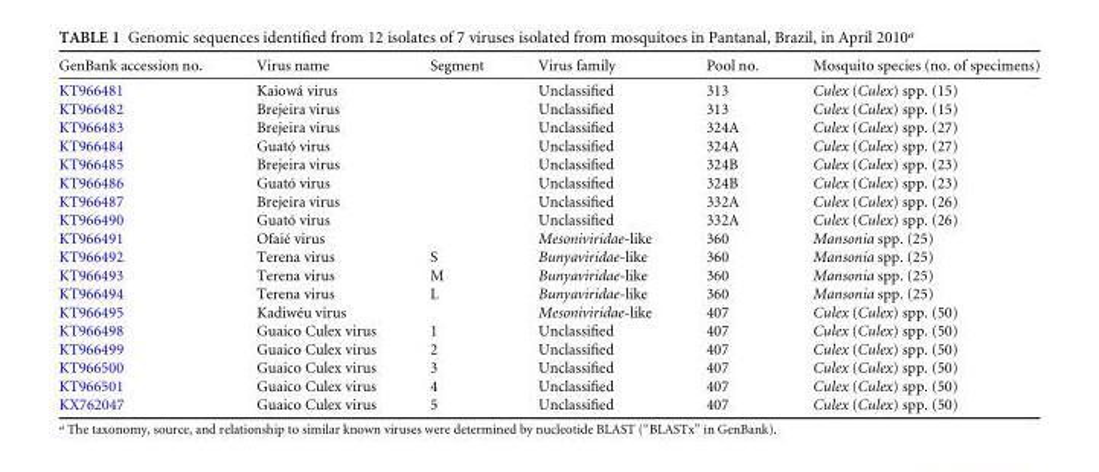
<table><thead><tr><td>GenBank accession no.</td><td>Virus name</td><td>Segment</td><td>Virus family</td><td>Pool no.</td><td>Mosquito species (no. of specimens)</td></tr></thead><tbody><tr><td>KT966481</td><td>Kaiowá virus</td><td></td><td>Unclassified</td><td>313</td><td>Culex (Culex) spp. (15)</td></tr><tr><td>KT966482</td><td>Brejeira virus</td><td></td><td>Unclassified</td><td>313</td><td>Culex (Culex) spp. (15)</td></tr><tr><td>KT966483</td><td>Brejeira virus</td><td></td><td>Unclassified</td><td>324A</td><td>Culex (Culex) spp. (27)</td></tr><tr><td>KT966484</td><td>Guató virus</td><td></td><td>Unclassified</td><td>324A</td><td>Culex (Culex) spp. (27)</td></tr><tr><td>KT966485</td><td>Brejeira virus</td><td></td><td>Unclassified</td><td>324B</td><td>Culex (Culex) spp. (23)</td></tr><tr><td>KT966486</td><td>Guató virus</td><td></td><td>Unclassified</td><td>324B</td><td>Culex (Culex) spp. (23)</td></tr><tr><td>KT966487</td><td>Brejeira virus</td><td></td><td>Unclassified</td><td>332A</td><td>Culex (Culex) spp. (26)</td></tr><tr><td>KT966490</td><td>Guató virus</td><td></td><td>Unclassified</td><td>332A</td><td>Culex (Culex) spp. (26)</td></tr><tr><td>KT966491</td><td>Ofaié virus</td><td></td><td>Mesoniviridae-like</td><td>360</td><td>Mansonia spp. (25)</td></tr><tr><td>KT966492</td><td>Terena virus</td><td>S</td><td>Bunyaviridae-like</td><td>360</td><td>Mansonia spp. (25)</td></tr><tr><td>KT966493</td><td>Terena virus</td><td>M</td><td>Bunyaviridae-like</td><td>360</td><td>Mansonia spp. (25)</td></tr><tr><td>KT966494</td><td>Terena virus</td><td>L</td><td>Bunyaviridae-like</td><td>360</td><td>Mansonia spp. (25)</td></tr><tr><td>KT966495</td><td>Kadiwéu virus</td><td></td><td>Mesoniviridae-like</td><td>407</td><td>Culex (Culex) spp. (50)</td></tr><tr><td>KT966498</td><td>Guaico Culex virus</td><td>1</td><td>Unclassified</td><td>407</td><td>Culex (Culex) spp. (50)</td></tr><tr><td>KT966499</td><td>Guaico Culex virus</td><td>2</td><td>Unclassified</td><td>407</td><td>Culex (Culex) spp. (50)</td></tr><tr><td>KT966500</td><td>Guaico Culex virus</td><td>3</td><td>Unclassified</td><td>407</td><td>Culex (Culex) spp. (50)</td></tr><tr><td>KT966501</td><td>Guaico Culex virus</td><td>4</td><td>Unclassified</td><td>407</td><td>Culex (Culex) spp. (50)</td></tr><tr><td>KX762047</td><td>Guaico Culex virus</td><td>5</td><td>Unclassified</td><td>407</td><td>Culex (Culex) spp. (50)</td></tr></tbody></table>